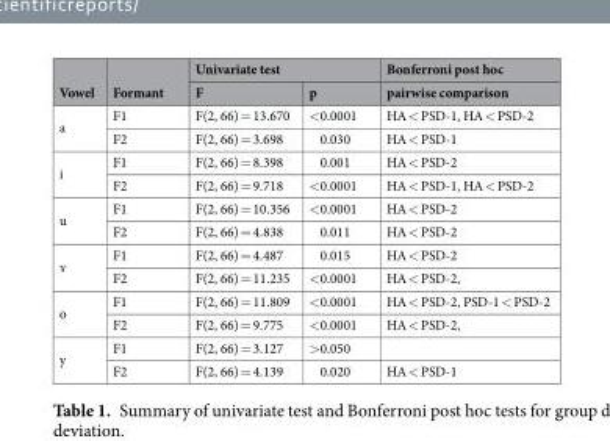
<table><thead><tr><td rowspan="2">Vowel</td><td rowspan="2">Formant</td><td colspan="2">Univariate test</td><td rowspan="2">Bonferroni post hoc pairwise comparison</td></tr><tr><td>F</td><td>p</td></tr></thead><tbody><tr><td rowspan="2">a</td><td>F1</td><td>F(2, 66) = 13.670</td><td>&lt;0.0001</td><td>HA &lt; PSD-1, HA &lt; PSD-2</td></tr><tr><td>F2</td><td>F(2, 66) = 3.698</td><td>0.030</td><td>HA &lt; PSD-1</td></tr><tr><td rowspan="2">i</td><td>F1</td><td>F(2, 66) = 8.398</td><td>0.001</td><td>HA &lt; PSD-2</td></tr><tr><td>F2</td><td>F(2, 66) = 9.718</td><td>&lt;0.0001</td><td>HA &lt; PSD-1, HA &lt; PSD-2</td></tr><tr><td rowspan="2">u</td><td>F1</td><td>F(2, 66) = 10.356</td><td>&lt;0.0001</td><td>HA &lt; PSD-2</td></tr><tr><td>F2</td><td>F(2, 66) = 4.838</td><td>0.011</td><td>HA &lt; PSD-2</td></tr><tr><td rowspan="2">ɤ</td><td>F1</td><td>F(2, 66) = 4.487</td><td>0.015</td><td>HA &lt; PSD-2</td></tr><tr><td>F2</td><td>F(2, 66) = 11.235</td><td>&lt;0.0001</td><td>HA &lt; PSD-2,</td></tr><tr><td rowspan="2">o</td><td>F1</td><td>F(2, 66) = 11.809</td><td>&lt;0.0001</td><td>HA &lt; PSD-2, PSD-1 &lt; PSD-2</td></tr><tr><td>F2</td><td>F(2, 66) = 9.775</td><td>&lt;0.0001</td><td>HA &lt; PSD-2,</td></tr><tr><td rowspan="2">y</td><td>F1</td><td>F(2, 66) = 3.127</td><td>&gt;0.050</td><td></td></tr><tr><td>F2</td><td>F(2, 66) = 4.139</td><td>0.020</td><td>HA &lt; PSD-1</td></tr></tbody></table>